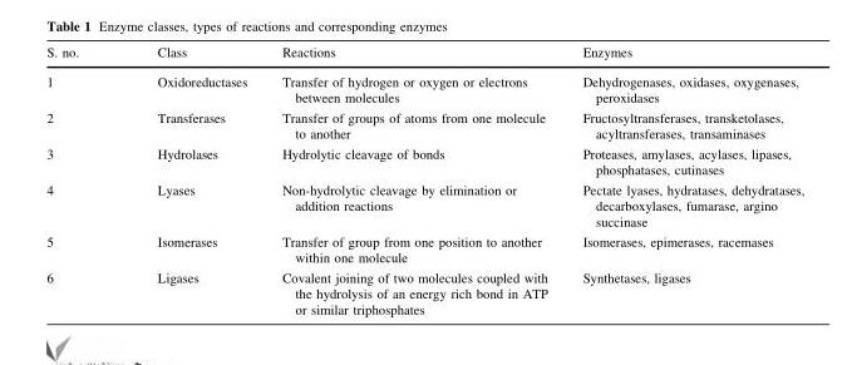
<table><thead><tr><td>S. no.</td><td>Class</td><td>Reactions</td><td>Enzymes</td></tr></thead><tbody><tr><td>1</td><td>Oxidoreductases</td><td>Transfer of hydrogen or oxygen or electrons between molecules</td><td>Dehydrogenases, oxidases, oxygenases, peroxidases</td></tr><tr><td>2</td><td>Transferases</td><td>Transfer of groups of atoms from one molecule to another</td><td>Fructosyltransferases, transketolases, acyltransferases, transaminases</td></tr><tr><td>3</td><td>Hydrolases</td><td>Hydrolytic cleavage of bonds</td><td>Proteases, amylases, acylases, lipases, phosphatases, cutinases</td></tr><tr><td>4</td><td>Lyases</td><td>Non-hydrolytic cleavage by elimination or addition reactions</td><td>Pectate lyases, hydratases, dehydratases, decarboxylases, fumarase, argino succinase</td></tr><tr><td>5</td><td>Isomerases</td><td>Transfer of group from one position to another within one molecule</td><td>Isomerases, epimerases, racemases</td></tr><tr><td>6</td><td>Ligases</td><td>Covalent joining of two molecules coupled with the hydrolysis of an energy rich bond in ATP or similar triphosphates</td><td>Synthetases, ligases</td></tr></tbody></table>